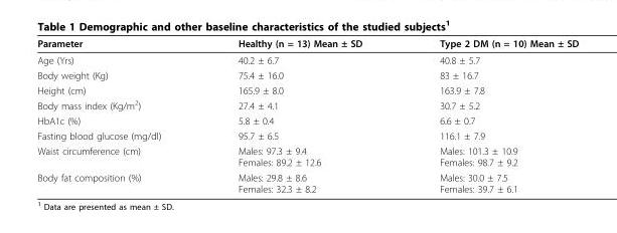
<table><thead><tr><td>Parameter</td><td>Healthy (n = 13) Mean ± SD</td><td>Type 2 DM (n = 10) Mean ± SD</td></tr></thead><tbody><tr><td>Age (Yrs)</td><td>40.2 ± 6.7</td><td>40.8 ± 5.7</td></tr><tr><td>Body weight (Kg)</td><td>75.4 ± 16.0</td><td>83 ± 16.7</td></tr><tr><td>Height (cm)</td><td>165.9 ± 8.0</td><td>163.9 ± 7.8</td></tr><tr><td>Body mass index (Kg/m<sup>2</sup>)</td><td>27.4 ± 4.1</td><td>30.7 ± 5.2</td></tr><tr><td>HbA1c (%)</td><td>5.8 ± 0.4</td><td>6.6 ± 0.7</td></tr><tr><td>Fasting blood glucose (mg/dl)</td><td>95.7 ± 6.5</td><td>116.1 ± 7.9</td></tr><tr><td>Waist circumference (cm)</td><td>Males: 97.3 ± 9.4 Females: 89.2 ± 12.6</td><td>Males: 101.3 ± 10.9 Females: 98.7 ± 9.2</td></tr><tr><td>Body fat composition (%)</td><td>Males: 29.8 ± 8.6 Females: 32.3 ± 8.2</td><td>Males: 30.0 ± 7.5 Females: 39.7 ± 6.1</td></tr></tbody></table>